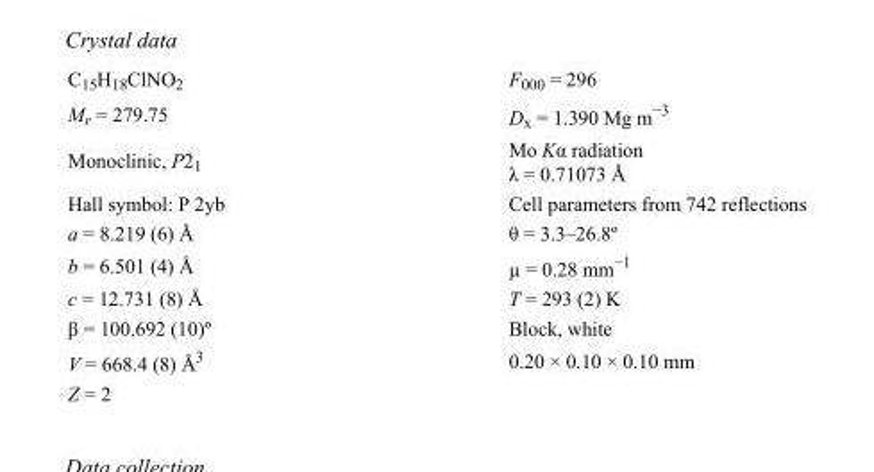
<table><tbody><tr><td>C<sub>15</sub>H<sub>18</sub>ClNO<sub>2</sub></td><td>F<sub>000</sub> = 296</td></tr><tr><td>M<sub>r</sub> = 279.75</td><td>D<sub>x</sub> = 1.390 Mg m<sup>−3</sup></td></tr><tr><td>Monoclinic, P2<sub>1</sub></td><td>Mo Kα radiation λ = 0.71073 Å</td></tr><tr><td>Hall symbol: P 2yb</td><td>Cell parameters from 742 reflections</td></tr><tr><td>a = 8.219 (6) Å</td><td>θ = 3.3–26.8º</td></tr><tr><td>b = 6.501 (4) Å</td><td>µ = 0.28 mm<sup>−1</sup></td></tr><tr><td>c = 12.731 (8) Å</td><td>T = 293 (2) K</td></tr><tr><td>β = 100.692 (10)º</td><td>Block, white</td></tr><tr><td>V = 668.4 (8) Å<sup>3</sup></td><td>0.20 × 0.10 × 0.10 mm</td></tr><tr><td>Z = 2</td><td></td></tr></tbody></table>